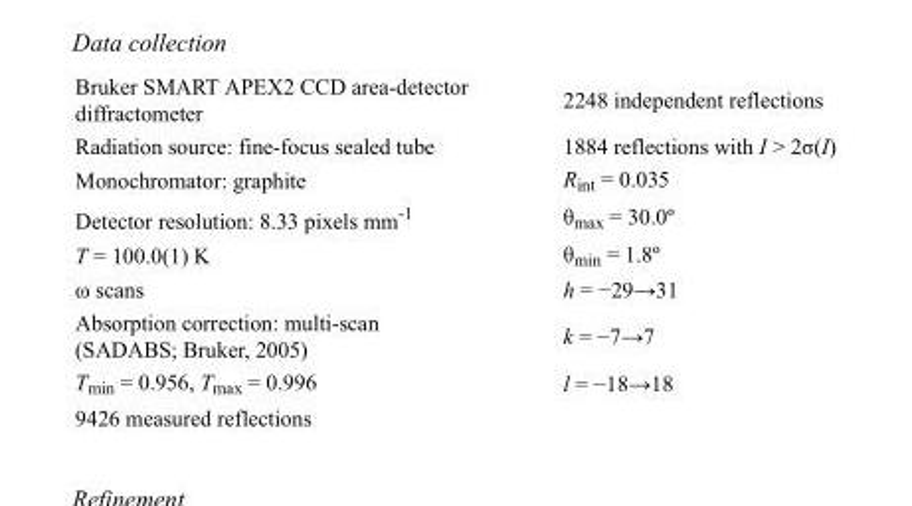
<table><tbody><tr><td>Bruker SMART APEX2 CCD area-detector diffractometer</td><td>2248 independent reflections</td></tr><tr><td>Radiation source: fine-focus sealed tube</td><td>1884 reflections with I &gt; 2σ(I)</td></tr><tr><td>Monochromator: graphite</td><td>R<sub>int</sub> = 0.035</td></tr><tr><td>Detector resolution: 8.33 pixels mm<sup>-1</sup></td><td>θ<sub>max</sub> = 30.0º</td></tr><tr><td>T = 100.0(1) K</td><td>θ<sub>min</sub> = 1.8º</td></tr><tr><td>ω scans</td><td>h = −29→31</td></tr><tr><td>Absorption correction: multi-scan (SADABS; Bruker, 2005)</td><td>k = −7→7</td></tr><tr><td>T<sub>min</sub> = 0.956, T<sub>max</sub> = 0.996</td><td>l = −18→18</td></tr><tr><td>9426 measured reflections</td><td></td></tr></tbody></table>